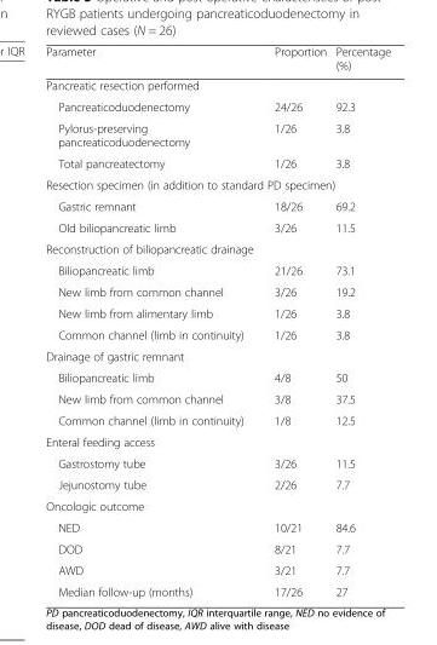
<table><thead><tr><td>Parameter</td><td>Proportion</td><td>Percentage (%)</td></tr></thead><tbody><tr><td colspan="3">Pancreatic resection performed</td></tr><tr><td>Pancreaticoduodenectomy</td><td>24/26</td><td>92.3</td></tr><tr><td>Pylorus-preserving pancreaticoduodenectomy</td><td>1/26</td><td>3.8</td></tr><tr><td>Total pancreatectomy</td><td>1/26</td><td>3.8</td></tr><tr><td colspan="3">Resection specimen (in addition to standard PD specimen)</td></tr><tr><td>Gastric remnant</td><td>18/26</td><td>69.2</td></tr><tr><td>Old biliopancreatic limb</td><td>3/26</td><td>11.5</td></tr><tr><td colspan="3">Reconstruction of biliopancreatic drainage</td></tr><tr><td>Biliopancreatic limb</td><td>21/26</td><td>73.1</td></tr><tr><td>New limb from common channel</td><td>3/26</td><td>19.2</td></tr><tr><td>New limb from alimentary limb</td><td>1/26</td><td>3.8</td></tr><tr><td>Common channel (limb in continuity)</td><td>1/26</td><td>3.8</td></tr><tr><td colspan="3">Drainage of gastric remnant</td></tr><tr><td>Biliopancreatic limb</td><td>4/8</td><td>50</td></tr><tr><td>New limb from common channel</td><td>3/8</td><td>37.5</td></tr><tr><td>Common channel (limb in continuity)</td><td>1/8</td><td>12.5</td></tr><tr><td colspan="3">Enteral feeding access</td></tr><tr><td>Gastrostomy tube</td><td>3/26</td><td>11.5</td></tr><tr><td>Jejunostomy tube</td><td>2/26</td><td>7.7</td></tr><tr><td colspan="3">Oncologic outcome</td></tr><tr><td>NED</td><td>10/21</td><td>84.6</td></tr><tr><td>DOD</td><td>8/21</td><td>7.7</td></tr><tr><td>AWD</td><td>3/21</td><td>7.7</td></tr><tr><td>Median follow-up (months)</td><td>17/26</td><td>27</td></tr></tbody></table>